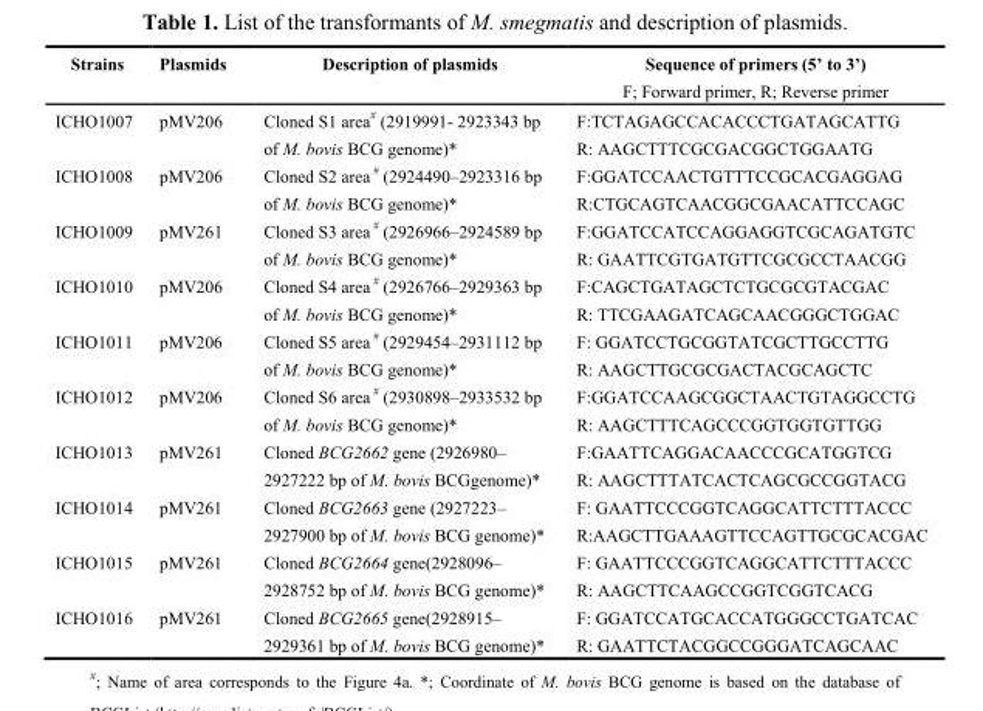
<table><thead><tr><td>Strains</td><td>Plasmids</td><td>Description of plasmids</td><td>Sequence of primers (5’ to 3’) F; Forward primer, R; Reverse primer</td></tr></thead><tbody><tr><td>ICHO1007</td><td>pMV206</td><td>Cloned S1 area<sup>#</sup> (2919991- 2923343 bp of M. bovis BCG genome)*</td><td>F:TCTAGAGCCACACCCTGATAGCATTG R: AAGCTTTCGCGACGGCTGGAATG</td></tr><tr><td>ICHO1008</td><td>pMV206</td><td>Cloned S2 area <sup>#</sup> (2924490–2923316 bp of M. bovis BCG genome)*</td><td>F:GGATCCAACTGTTTCCGCACGAGGAG R:CTGCAGTCAACGGCGAACATTCCAGC</td></tr><tr><td>ICHO1009</td><td>pMV261</td><td>Cloned S3 area <sup>#</sup> (2926966–2924589 bp of M. bovis BCG genome)*</td><td>F:GGATCCATCCAGGAGGTCGCAGATGTC R: GAATTCGTGATGTTCGCGCCTAACGG</td></tr><tr><td>ICHO1010</td><td>pMV206</td><td>Cloned S4 area <sup>#</sup> (2926766–2929363 bp of M. bovis BCG genome)*</td><td>F:CAGCTGATAGCTCTGCGCGTACGAC R: TTCGAAGATCAGCAACGGGCTGGAC</td></tr><tr><td>ICHO1011</td><td>pMV206</td><td>Cloned S5 area <sup>#</sup> (2929454–2931112 bp of M. bovis BCG genome)*</td><td>F: GGATCCTGCGGTATCGCTTGCCTTG R: AAGCTTGCGCGACTACGCAGCTC</td></tr><tr><td>ICHO1012</td><td>pMV206</td><td>Cloned S6 area <sup>#</sup> (2930898–2933532 bp of M. bovis BCG genome)*</td><td>F:GGATCCAAGCGGCTAACTGTAGGCCTG R: AAGCTTTCAGCCCGGTGGTGTTGG</td></tr><tr><td>ICHO1013</td><td>pMV261</td><td>Cloned BCG2662 gene (2926980– 2927222 bp of M. bovis BCGgenome)*</td><td>F:GAATTCAGGACAACCCGCATGGTCG R: AAGCTTTATCACTCAGCGCCGGTACG</td></tr><tr><td>ICHO1014</td><td>pMV261</td><td>Cloned BCG2663 gene (2927223– 2927900 bp of M. bovis BCG genome)*</td><td>F: GAATTCCCGGTCAGGCATTCTTTACCC R:AAGCTTGAAAGTTCCAGTTGCGCACGAC</td></tr><tr><td>ICHO1015</td><td>pMV261</td><td>Cloned BCG2664 gene(2928096– 2928752 bp of M. bovis BCG genome)*</td><td>F: GAATTCCCGGTCAGGCATTCTTTACCC R: AAGCTTCAAGCCGGTCGGTCACG</td></tr><tr><td>ICHO1016</td><td>pMV261</td><td>Cloned BCG2665 gene(2928915– 2929361 bp of M. bovis BCG genome)*</td><td>F: GGATCCATGCACCATGGGCCTGATCAC R: GAATTCTACGGCCGGGATCAGCAAC</td></tr></tbody></table>